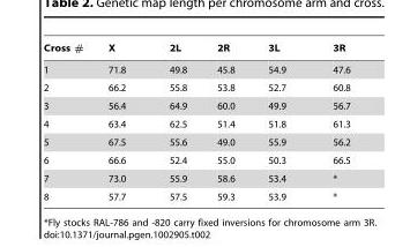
<table><thead><tr><td>Cross #</td><td>X</td><td>2L</td><td>2R</td><td>3L</td><td>3R</td></tr></thead><tbody><tr><td>1</td><td>71.8</td><td>49.8</td><td>45.8</td><td>54.9</td><td>47.6</td></tr><tr><td>2</td><td>66.2</td><td>55.8</td><td>53.8</td><td>52.7</td><td>60.8</td></tr><tr><td>3</td><td>56.4</td><td>64.9</td><td>60.0</td><td>49.9</td><td>56.7</td></tr><tr><td>4</td><td>63.4</td><td>62.5</td><td>51.4</td><td>51.8</td><td>61.3</td></tr><tr><td>5</td><td>67.5</td><td>55.6</td><td>49.0</td><td>55.9</td><td>56.2</td></tr><tr><td>6</td><td>66.6</td><td>52.4</td><td>55.0</td><td>50.3</td><td>66.5</td></tr><tr><td>7</td><td>73.0</td><td>55.9</td><td>58.6</td><td>53.4</td><td>*</td></tr><tr><td>8</td><td>57.7</td><td>57.5</td><td>59.3</td><td>53.9</td><td>*</td></tr></tbody></table>